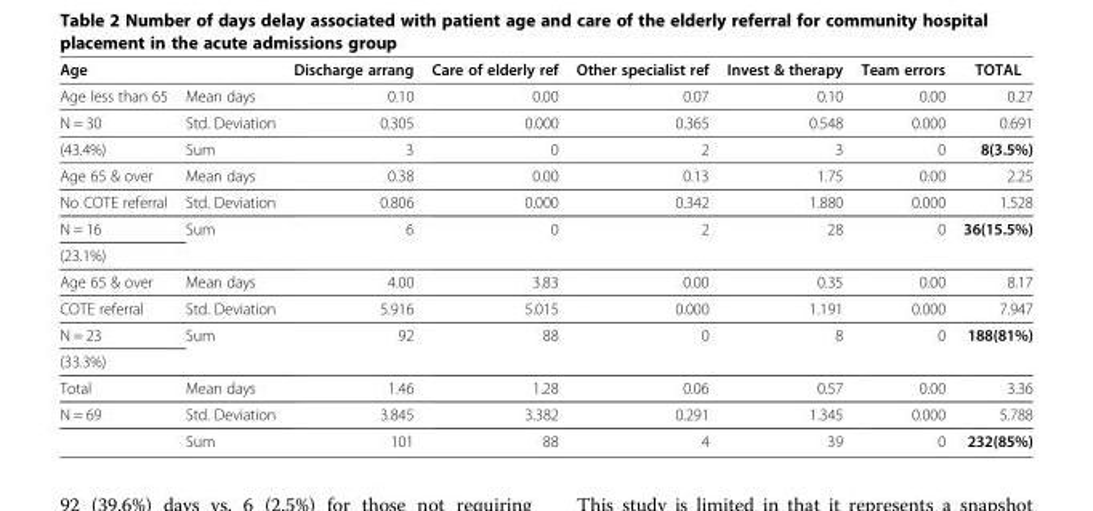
<table><thead><tr><td>Age</td><td></td><td>Discharge arrang</td><td>Care of elderly ref</td><td>Other specialist ref</td><td>Invest &amp; therapy</td><td>Team errors</td><td>TOTAL</td></tr></thead><tbody><tr><td>Age less than 65</td><td>Mean days</td><td>0.10</td><td>0.00</td><td>0.07</td><td>0.10</td><td>0.00</td><td>0.27</td></tr><tr><td>N = 30</td><td>Std. Deviation</td><td>0.305</td><td>0.000</td><td>0.365</td><td>0.548</td><td>0.000</td><td>0.691</td></tr><tr><td>(43.4%)</td><td>Sum</td><td>3</td><td>0</td><td>2</td><td>3</td><td>0</td><td>8(3.5%)</td></tr><tr><td>Age 65 &amp; over</td><td>Mean days</td><td>0.38</td><td>0.00</td><td>0.13</td><td>1.75</td><td>0.00</td><td>2.25</td></tr><tr><td>No COTE referral</td><td>Std. Deviation</td><td>0.806</td><td>0.000</td><td>0.342</td><td>1.880</td><td>0.000</td><td>1.528</td></tr><tr><td>N = 16</td><td>Sum</td><td>6</td><td>0</td><td>2</td><td>28</td><td>0</td><td>36(15.5%)</td></tr><tr><td colspan="8">(23.1%)</td></tr><tr><td>Age 65 &amp; over</td><td>Mean days</td><td>4.00</td><td>3.83</td><td>0.00</td><td>0.35</td><td>0.00</td><td>8.17</td></tr><tr><td>COTE referral</td><td>Std. Deviation</td><td>5.916</td><td>5.015</td><td>0.000</td><td>1.191</td><td>0.000</td><td>7.947</td></tr><tr><td>N = 23</td><td>Sum</td><td>92</td><td>88</td><td>0</td><td>8</td><td>0</td><td>188(81%)</td></tr><tr><td colspan="8">(33.3%)</td></tr><tr><td>Total</td><td>Mean days</td><td>1.46</td><td>1.28</td><td>0.06</td><td>0.57</td><td>0.00</td><td>3.36</td></tr><tr><td rowspan="2">N = 69</td><td>Std. Deviation</td><td>3.845</td><td>3.382</td><td>0.291</td><td>1.345</td><td>0.000</td><td>5.788</td></tr><tr><td>Sum</td><td>101</td><td>88</td><td>4</td><td>39</td><td>0</td><td>232(85%)</td></tr></tbody></table>